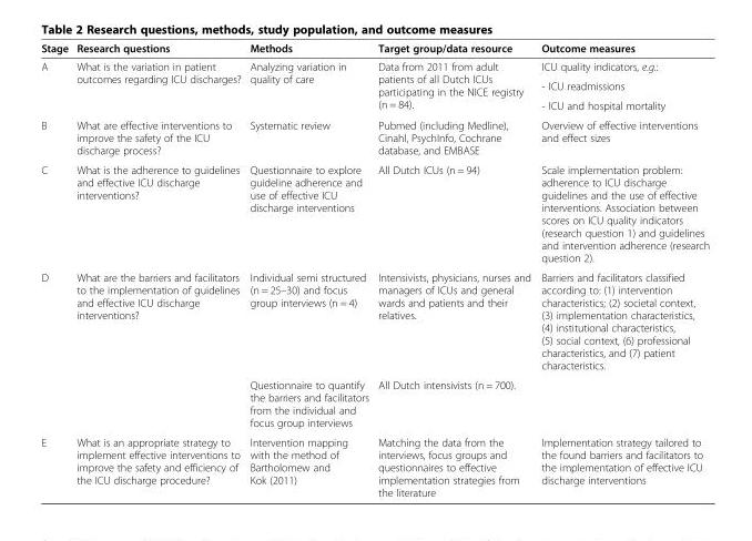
<table><thead><tr><td>Stage</td><td>Research questions</td><td>Methods</td><td>Target group/data resource</td><td>Outcome measures</td></tr></thead><tbody><tr><td rowspan="3">A</td><td rowspan="3">What is the variation in patient outcomes regarding ICU discharges?</td><td rowspan="3">Analyzing variation in quality of care</td><td rowspan="3">Data from 2011 from adult patients of all Dutch ICUs participating in the NICE registry (n = 84).</td><td>ICU quality indicators, e.g.:</td></tr><tr><td>- ICU readmissions</td></tr><tr><td>- ICU and hospital mortality</td></tr><tr><td>B</td><td>What are effective interventions to improve the safety of the ICU discharge process?</td><td>Systematic review</td><td>Pubmed (including Medline), Cinahl, PsychInfo, Cochrane database, and EMBASE</td><td>Overview of effective interventions and effect sizes</td></tr><tr><td>C</td><td>What is the adherence to guidelines and effective ICU discharge interventions?</td><td>Questionnaire to explore guideline adherence and use of effective ICU discharge interventions</td><td>All Dutch ICUs (n = 94)</td><td>Scale implementation problem: adherence to ICU discharge guidelines and the use of effective interventions. Association between scores on ICU quality indicators (research question 1) and guidelines and intervention adherence (research question 2).</td></tr><tr><td rowspan="2">D</td><td>What are the barriers and facilitators to the implementation of guidelines and effective ICU discharge interventions?</td><td>Individual semi structured (n = 25–30) and focus group interviews (n = 4)</td><td>Intensivists, physicians, nurses and managers of ICUs and general wards and patients and their relatives.</td><td>Barriers and facilitators classified according to: (1) intervention characteristics; (2) societal context, (3) implementation characteristics, (4) institutional characteristics, (5) social context, (6) professional characteristics, and (7) patient characteristics.</td></tr><tr><td></td><td>Questionnaire to quantify the barriers and facilitators from the individual and focus group interviews</td><td>All Dutch intensivists (n = 700).</td><td></td></tr><tr><td>E</td><td>What is an appropriate strategy to implement effective interventions to improve the safety and efficiency of the ICU discharge procedure?</td><td>Intervention mapping with the method of Bartholomew and Kok (2011)</td><td>Matching the data from the interviews, focus groups and questionnaires to effective implementation strategies from the literature</td><td>Implementation strategy tailored to the found barriers and facilitators to the implementation of effective ICU discharge interventions</td></tr></tbody></table>